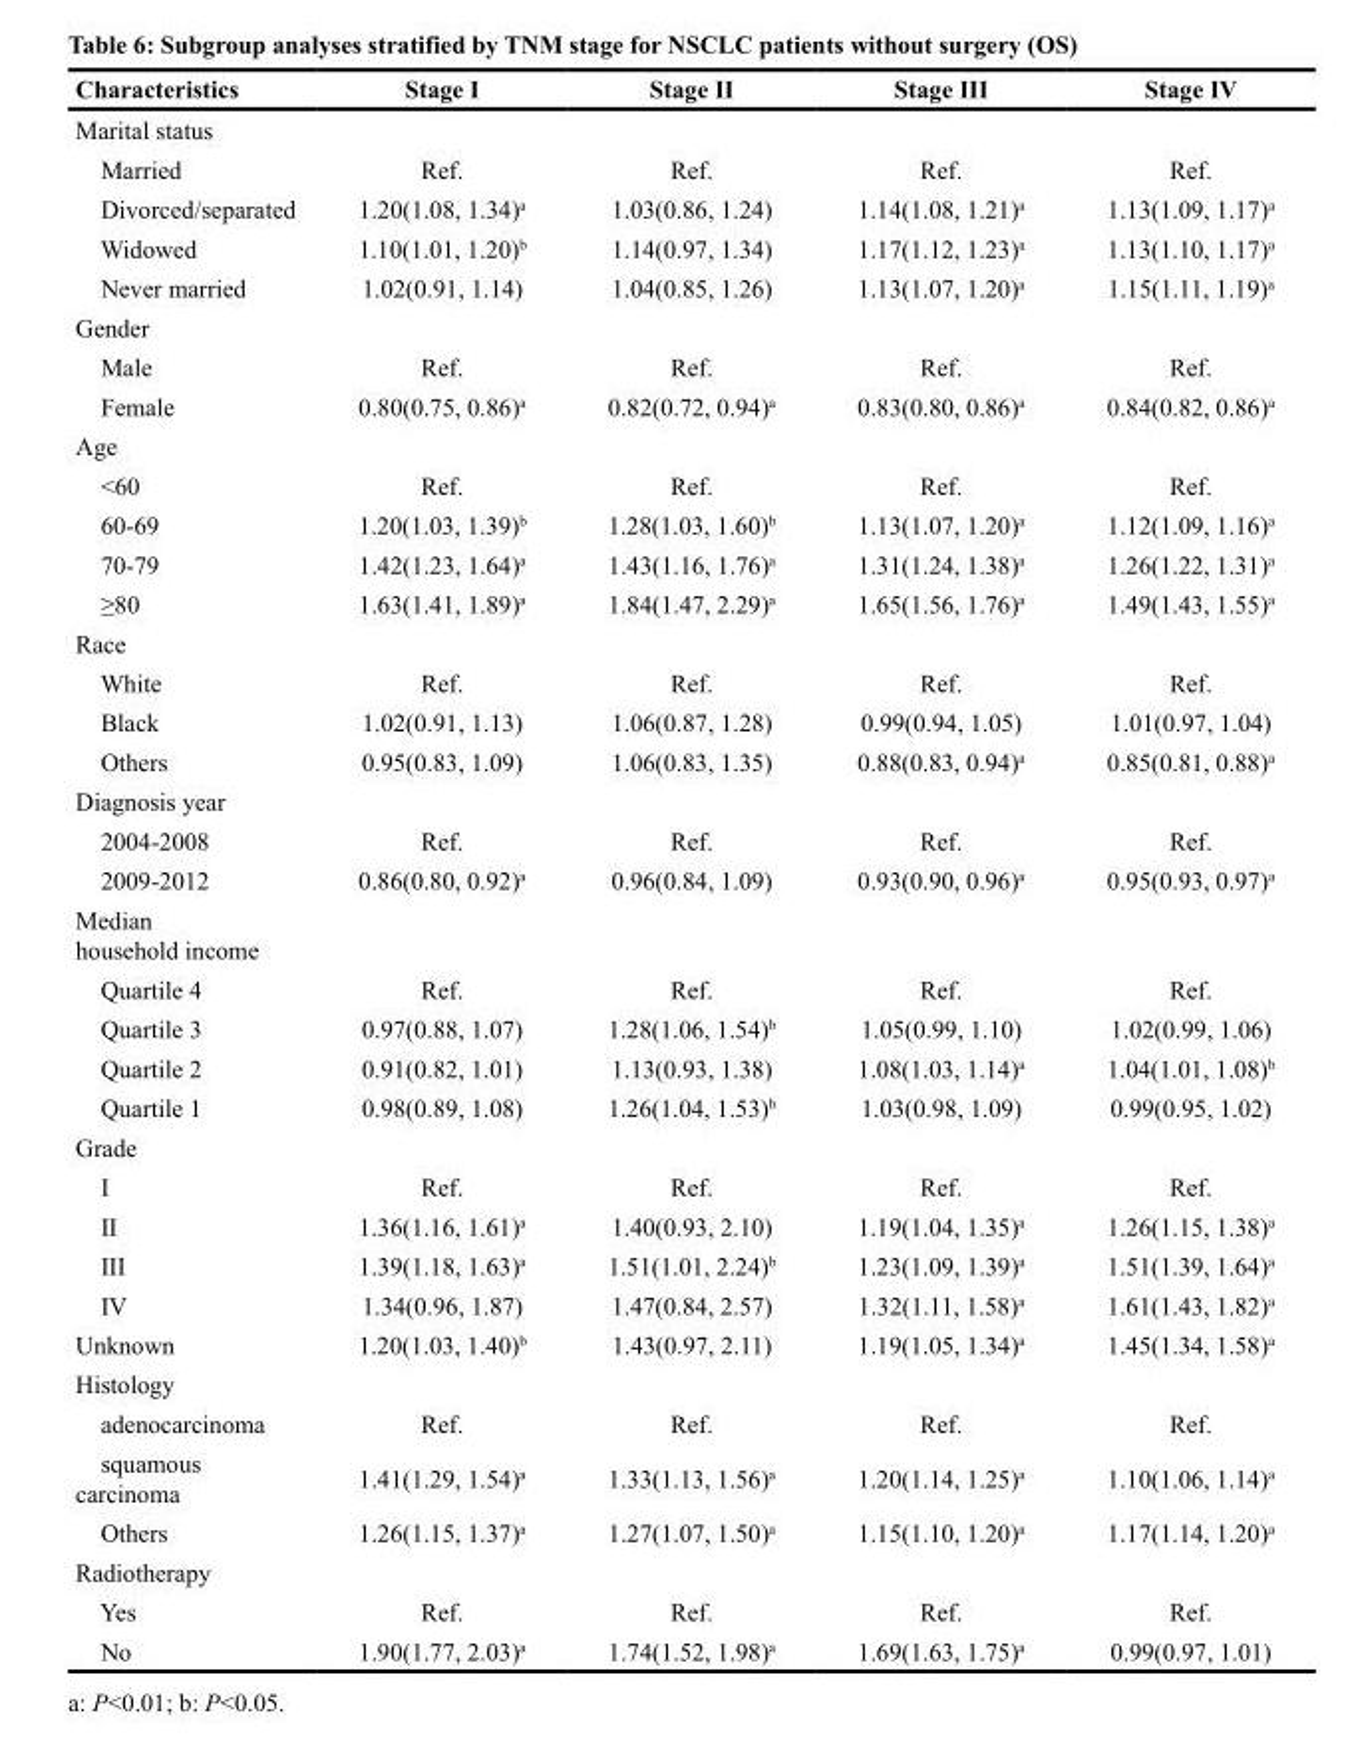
<table><thead><tr><td>Characteristics</td><td>Stage I</td><td>Stage II</td><td>Stage III</td><td>Stage IV</td></tr></thead><tbody><tr><td colspan="5">Marital status</td></tr><tr><td>Married</td><td>Ref.</td><td>Ref.</td><td>Ref.</td><td>Ref.</td></tr><tr><td>Divorced/separated</td><td>1.20(1.08, 1.34)<sup>a</sup></td><td>1.03(0.86, 1.24)</td><td>1.14(1.08, 1.21)<sup>a</sup></td><td>1.13(1.09, 1.17)<sup>a</sup></td></tr><tr><td>Widowed</td><td>1.10(1.01, 1.20)<sup>b</sup></td><td>1.14(0.97, 1.34)</td><td>1.17(1.12, 1.23)<sup>a</sup></td><td>1.13(1.10, 1.17)<sup>a</sup></td></tr><tr><td>Never married</td><td>1.02(0.91, 1.14)</td><td>1.04(0.85, 1.26)</td><td>1.13(1.07, 1.20)<sup>a</sup></td><td>1.15(1.11, 1.19)<sup>a</sup></td></tr><tr><td colspan="5">Gender</td></tr><tr><td>Male</td><td>Ref.</td><td>Ref.</td><td>Ref.</td><td>Ref.</td></tr><tr><td>Female</td><td>0.80(0.75, 0.86)<sup>a</sup></td><td>0.82(0.72, 0.94)<sup>a</sup></td><td>0.83(0.80, 0.86)<sup>a</sup></td><td>0.84(0.82, 0.86)<sup>a</sup></td></tr><tr><td colspan="5">Age</td></tr><tr><td>&lt;60</td><td>Ref.</td><td>Ref.</td><td>Ref.</td><td>Ref.</td></tr><tr><td>60-69</td><td>1.20(1.03, 1.39)<sup>b</sup></td><td>1.28(1.03, 1.60)<sup>b</sup></td><td>1.13(1.07, 1.20)<sup>a</sup></td><td>1.12(1.09, 1.16)<sup>a</sup></td></tr><tr><td>70-79</td><td>1.42(1.23, 1.64)<sup>a</sup></td><td>1.43(1.16, 1.76)<sup>a</sup></td><td>1.31(1.24, 1.38)<sup>a</sup></td><td>1.26(1.22, 1.31)<sup>a</sup></td></tr><tr><td>≥80</td><td>1.63(1.41, 1.89)<sup>a</sup></td><td>1.84(1.47, 2.29)<sup>a</sup></td><td>1.65(1.56, 1.76)<sup>a</sup></td><td>1.49(1.43, 1.55)<sup>a</sup></td></tr><tr><td colspan="5">Race</td></tr><tr><td>White</td><td>Ref.</td><td>Ref.</td><td>Ref.</td><td>Ref.</td></tr><tr><td>Black</td><td>1.02(0.91, 1.13)</td><td>1.06(0.87, 1.28)</td><td>0.99(0.94, 1.05)</td><td>1.01(0.97, 1.04)</td></tr><tr><td>Others</td><td>0.95(0.83, 1.09)</td><td>1.06(0.83, 1.35)</td><td>0.88(0.83, 0.94)<sup>a</sup></td><td>0.85(0.81, 0.88)<sup>a</sup></td></tr><tr><td colspan="5">Diagnosis year</td></tr><tr><td>2004-2008</td><td>Ref.</td><td>Ref.</td><td>Ref.</td><td>Ref.</td></tr><tr><td>2009-2012</td><td>0.86(0.80, 0.92)<sup>a</sup></td><td>0.96(0.84, 1.09)</td><td>0.93(0.90, 0.96)<sup>a</sup></td><td>0.95(0.93, 0.97)<sup>a</sup></td></tr><tr><td colspan="5">Median household income</td></tr><tr><td>Quartile 4</td><td>Ref.</td><td>Ref.</td><td>Ref.</td><td>Ref.</td></tr><tr><td>Quartile 3</td><td>0.97(0.88, 1.07)</td><td>1.28(1.06, 1.54)<sup>b</sup></td><td>1.05(0.99, 1.10)</td><td>1.02(0.99, 1.06)</td></tr><tr><td>Quartile 2</td><td>0.91(0.82, 1.01)</td><td>1.13(0.93, 1.38)</td><td>1.08(1.03, 1.14)<sup>a</sup></td><td>1.04(1.01, 1.08)<sup>b</sup></td></tr><tr><td>Quartile 1</td><td>0.98(0.89, 1.08)</td><td>1.26(1.04, 1.53)<sup>b</sup></td><td>1.03(0.98, 1.09)</td><td>0.99(0.95, 1.02)</td></tr><tr><td colspan="5">Grade</td></tr><tr><td>I</td><td>Ref.</td><td>Ref.</td><td>Ref.</td><td>Ref.</td></tr><tr><td>II</td><td>1.36(1.16, 1.61)<sup>a</sup></td><td>1.40(0.93, 2.10)</td><td>1.19(1.04, 1.35)<sup>a</sup></td><td>1.26(1.15, 1.38)<sup>a</sup></td></tr><tr><td>III</td><td>1.39(1.18, 1.63)<sup>a</sup></td><td>1.51(1.01, 2.24)<sup>b</sup></td><td>1.23(1.09, 1.39)<sup>a</sup></td><td>1.51(1.39, 1.64)<sup>a</sup></td></tr><tr><td>IV</td><td>1.34(0.96, 1.87)</td><td>1.47(0.84, 2.57)</td><td>1.32(1.11, 1.58)<sup>a</sup></td><td>1.61(1.43, 1.82)<sup>a</sup></td></tr><tr><td>Unknown</td><td>1.20(1.03, 1.40)<sup>b</sup></td><td>1.43(0.97, 2.11)</td><td>1.19(1.05, 1.34)<sup>a</sup></td><td>1.45(1.34, 1.58)<sup>a</sup></td></tr><tr><td colspan="5">Histology</td></tr><tr><td>adenocarcinoma</td><td>Ref.</td><td>Ref.</td><td>Ref.</td><td>Ref.</td></tr><tr><td>squamous carcinoma</td><td>1.41(1.29, 1.54)<sup>a</sup></td><td>1.33(1.13, 1.56)<sup>a</sup></td><td>1.20(1.14, 1.25)<sup>a</sup></td><td>1.10(1.06, 1.14)<sup>a</sup></td></tr><tr><td>Others</td><td>1.26(1.15, 1.37)<sup>a</sup></td><td>1.27(1.07, 1.50)<sup>a</sup></td><td>1.15(1.10, 1.20)<sup>a</sup></td><td>1.17(1.14, 1.20)<sup>a</sup></td></tr><tr><td colspan="5">Radiotherapy</td></tr><tr><td>Yes</td><td>Ref.</td><td>Ref.</td><td>Ref.</td><td>Ref.</td></tr><tr><td>No</td><td>1.90(1.77, 2.03)<sup>a</sup></td><td>1.74(1.52, 1.98)<sup>a</sup></td><td>1.69(1.63, 1.75)<sup>a</sup></td><td>0.99(0.97, 1.01)</td></tr></tbody></table>